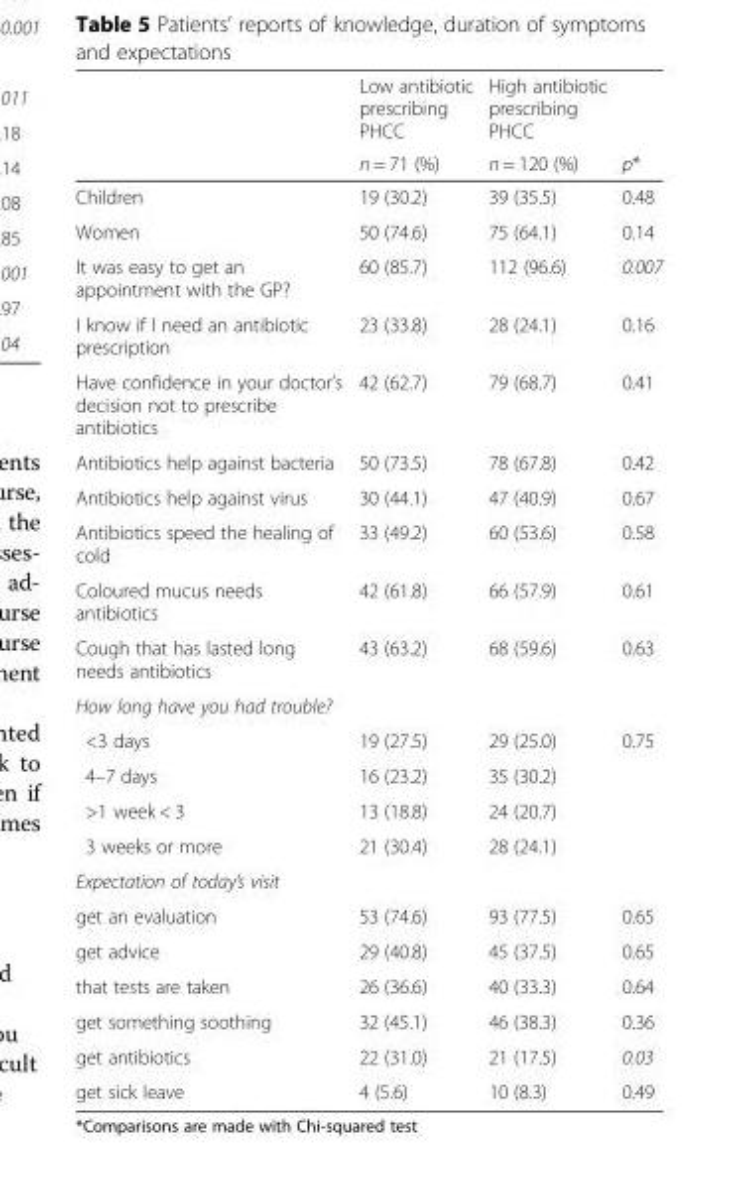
<table><thead><tr><td rowspan="2"></td><td rowspan="2">Low antibiotic prescribing PHCC n = 71 (%)</td><td rowspan="2">High antibiotic prescribing PHCC n = 120 (%)</td><td rowspan="2">p*</td></tr><tr></tr></thead><tbody><tr><td>Children</td><td>19 (30.2)</td><td>39 (35.5)</td><td>0.48</td></tr><tr><td>Women</td><td>50 (74.6)</td><td>75 (64.1)</td><td>0.14</td></tr><tr><td>It was easy to get an appointment with the GP?</td><td>60 (85.7)</td><td>112 (96.6)</td><td>0.007</td></tr><tr><td>I know if I need an antibiotic prescription</td><td>23 (33.8)</td><td>28 (24.1)</td><td>0.16</td></tr><tr><td>Have confidence in your doctor’s decision not to prescribe antibiotics</td><td>42 (62.7)</td><td>79 (68.7)</td><td>0.41</td></tr><tr><td>Antibiotics help against bacteria</td><td>50 (73.5)</td><td>78 (67.8)</td><td>0.42</td></tr><tr><td>Antibiotics help against virus</td><td>30 (44.1)</td><td>47 (40.9)</td><td>0.67</td></tr><tr><td>Antibiotics speed the healing of cold</td><td>33 (49.2)</td><td>60 (53.6)</td><td>0.58</td></tr><tr><td>Coloured mucus needs antibiotics</td><td>42 (61.8)</td><td>66 (57.9)</td><td>0.61</td></tr><tr><td>Cough that has lasted long needs antibiotics</td><td>43 (63.2)</td><td>68 (59.6)</td><td>0.63</td></tr><tr><td colspan="4">How long have you had trouble?</td></tr><tr><td>&lt;3 days</td><td>19 (27.5)</td><td>29 (25.0)</td><td rowspan="4">0.75</td></tr><tr><td>4–7 days</td><td>16 (23.2)</td><td>35 (30.2)</td></tr><tr><td>&gt;1 week &lt; 3</td><td>13 (18.8)</td><td>24 (20.7)</td></tr><tr><td>3 weeks or more</td><td>21 (30.4)</td><td>28 (24.1)</td></tr><tr><td colspan="4">Expectation of today’s visit</td></tr><tr><td>get an evaluation</td><td>53 (74.6)</td><td>93 (77.5)</td><td>0.65</td></tr><tr><td>get advice</td><td>29 (40.8)</td><td>45 (37.5)</td><td>0.65</td></tr><tr><td>that tests are taken</td><td>26 (36.6)</td><td>40 (33.3)</td><td>0.64</td></tr><tr><td>get something soothing</td><td>32 (45.1)</td><td>46 (38.3)</td><td>0.36</td></tr><tr><td>get antibiotics</td><td>22 (31.0)</td><td>21 (17.5)</td><td>0.03</td></tr><tr><td>get sick leave</td><td>4 (5.6)</td><td>10 (8.3)</td><td>0.49</td></tr></tbody></table>